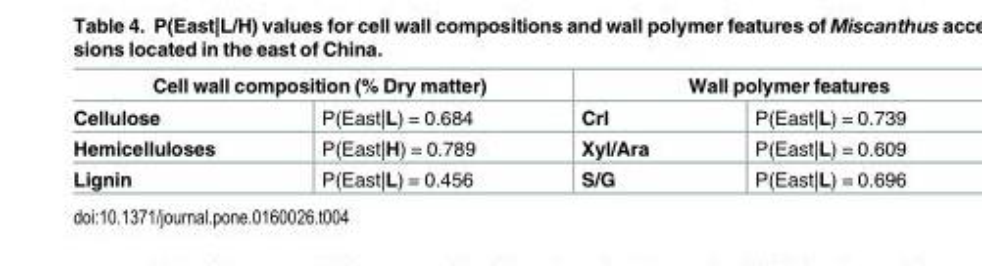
<table><thead><tr><td colspan="2">Cell wall composition (% Dry matter)</td><td colspan="2">Wall polymer features</td></tr><tr><td>Cellulose</td><td>P(East|L) = 0.684</td><td>CrI</td><td>P(East|L) = 0.739</td></tr></thead><tbody><tr><td>Hemicelluloses</td><td>P(East|H) = 0.789</td><td>Xyl/Ara</td><td>P(East|L) = 0.609</td></tr><tr><td>Lignin</td><td>P(East|L) = 0.456</td><td>S/G</td><td>P(East|L) = 0.696</td></tr></tbody></table>